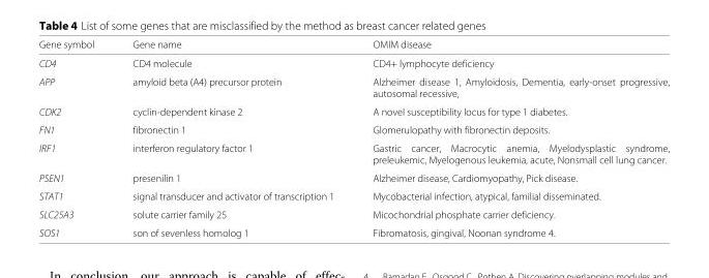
<table><thead><tr><td>Gene symbol</td><td>Gene name</td><td>OMIM disease</td></tr></thead><tbody><tr><td>CD4</td><td>CD4 molecule</td><td>CD4+ lymphocyte deficiency</td></tr><tr><td>APP</td><td>amyloid beta (A4) precursor protein</td><td>Alzheimer disease 1, Amyloidosis, Dementia, early-onset progressive, autosomal recessive,</td></tr><tr><td>CDK2</td><td>cyclin-dependent kinase 2</td><td>A novel susceptibility locus for type 1 diabetes.</td></tr><tr><td>FN1</td><td>fibronectin 1</td><td>Glomerulopathy with fibronectin deposits.</td></tr><tr><td>IRF1</td><td>interferon regulatory factor 1</td><td>Gastric cancer, Macrocytic anemia, Myelodysplastic syndrome, preleukemic, Myelogenous leukemia, acute, Nonsmall cell lung cancer.</td></tr><tr><td>PSEN1</td><td>presenilin 1</td><td>Alzheimer disease, Cardiomyopathy, Pick disease.</td></tr><tr><td>STAT1</td><td>signal transducer and activator of transcription 1</td><td>Mycobacterial infection, atypical, familial disseminated.</td></tr><tr><td>SLC25A3</td><td>solute carrier family 25</td><td>Micochondrial phosphate carrier deficiency.</td></tr><tr><td>SOS1</td><td>son of sevenless homolog 1</td><td>Fibromatosis, gingival, Noonan syndrome 4.</td></tr></tbody></table>